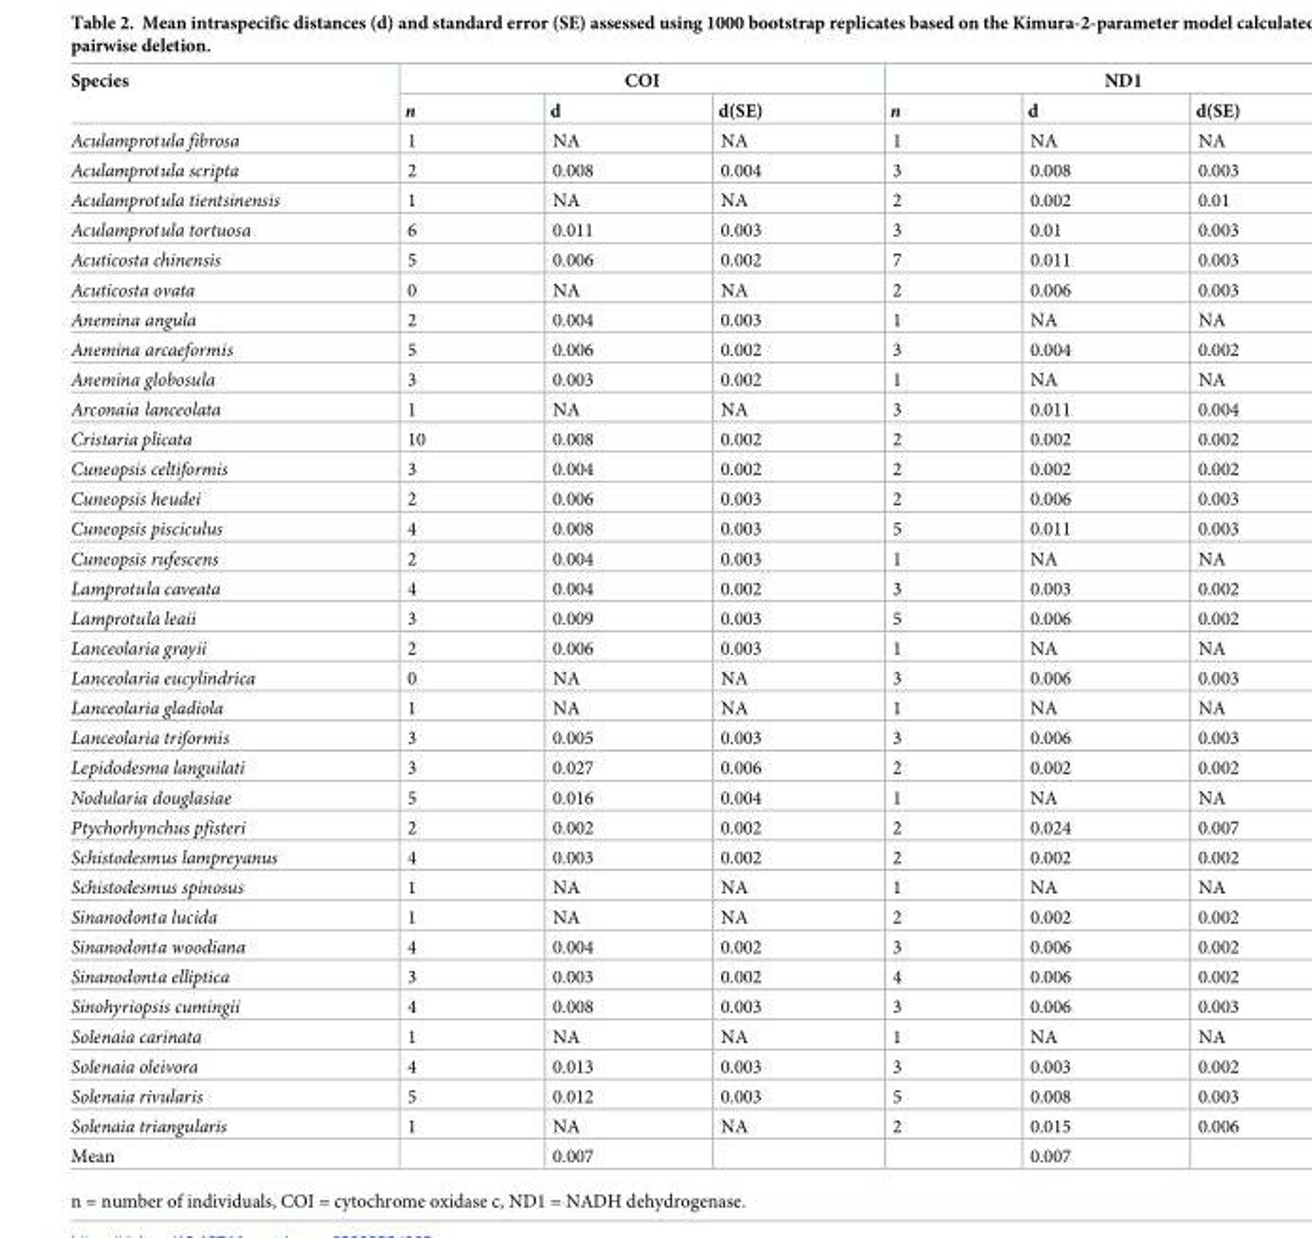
<table><thead><tr><td rowspan="2">Species</td><td colspan="3">COI</td><td colspan="3">ND1</td></tr><tr><td>n</td><td>d</td><td>d(SE)</td><td>n</td><td>d</td><td>d(SE)</td></tr></thead><tbody><tr><td>Aculamprotula fibrosa</td><td>1</td><td>NA</td><td>NA</td><td>1</td><td>NA</td><td>NA</td></tr><tr><td>Aculamprotula scripta</td><td>2</td><td>0.008</td><td>0.004</td><td>3</td><td>0.008</td><td>0.003</td></tr><tr><td>Aculamprotula tientsinensis</td><td>1</td><td>NA</td><td>NA</td><td>2</td><td>0.002</td><td>0.01</td></tr><tr><td>Aculamprotula tortuosa</td><td>6</td><td>0.011</td><td>0.003</td><td>3</td><td>0.01</td><td>0.003</td></tr><tr><td>Acuticosta chinensis</td><td>5</td><td>0.006</td><td>0.002</td><td>7</td><td>0.011</td><td>0.003</td></tr><tr><td>Acuticosta ovata</td><td>0</td><td>NA</td><td>NA</td><td>2</td><td>0.006</td><td>0.003</td></tr><tr><td>Anemina angula</td><td>2</td><td>0.004</td><td>0.003</td><td>1</td><td>NA</td><td>NA</td></tr><tr><td>Anemina arcaeformis</td><td>5</td><td>0.006</td><td>0.002</td><td>3</td><td>0.004</td><td>0.002</td></tr><tr><td>Anemina globosula</td><td>3</td><td>0.003</td><td>0.002</td><td>1</td><td>NA</td><td>NA</td></tr><tr><td>Arconaia lanceolata</td><td>1</td><td>NA</td><td>NA</td><td>3</td><td>0.011</td><td>0.004</td></tr><tr><td>Cristaria plicata</td><td>10</td><td>0.008</td><td>0.002</td><td>2</td><td>0.002</td><td>0.002</td></tr><tr><td>Cuneopsis celtiformis</td><td>3</td><td>0.004</td><td>0.002</td><td>2</td><td>0.002</td><td>0.002</td></tr><tr><td>Cuneopsis heudei</td><td>2</td><td>0.006</td><td>0.003</td><td>2</td><td>0.006</td><td>0.003</td></tr><tr><td>Cuneopsis pisciculus</td><td>4</td><td>0.008</td><td>0.003</td><td>5</td><td>0.011</td><td>0.003</td></tr><tr><td>Cuneopsis rufescens</td><td>2</td><td>0.004</td><td>0.003</td><td>1</td><td>NA</td><td>NA</td></tr><tr><td>Lamprotula caveata</td><td>4</td><td>0.004</td><td>0.002</td><td>3</td><td>0.003</td><td>0.002</td></tr><tr><td>Lamprotula leaii</td><td>3</td><td>0.009</td><td>0.003</td><td>5</td><td>0.006</td><td>0.002</td></tr><tr><td>Lanceolaria grayii</td><td>2</td><td>0.006</td><td>0.003</td><td>1</td><td>NA</td><td>NA</td></tr><tr><td>Lanceolaria eucylindrica</td><td>0</td><td>NA</td><td>NA</td><td>3</td><td>0.006</td><td>0.003</td></tr><tr><td>Lanceolaria gladiola</td><td>1</td><td>NA</td><td>NA</td><td>1</td><td>NA</td><td>NA</td></tr><tr><td>Lanceolaria triformis</td><td>3</td><td>0.005</td><td>0.003</td><td>3</td><td>0.006</td><td>0.003</td></tr><tr><td>Lepidodesma languilati</td><td>3</td><td>0.027</td><td>0.006</td><td>2</td><td>0.002</td><td>0.002</td></tr><tr><td>Nodularia douglasiae</td><td>5</td><td>0.016</td><td>0.004</td><td>1</td><td>NA</td><td>NA</td></tr><tr><td>Ptychorhynchus pfisteri</td><td>2</td><td>0.002</td><td>0.002</td><td>2</td><td>0.024</td><td>0.007</td></tr><tr><td>Schistodesmus lampreyanus</td><td>4</td><td>0.003</td><td>0.002</td><td>2</td><td>0.002</td><td>0.002</td></tr><tr><td>Schistodesmus spinosus</td><td>1</td><td>NA</td><td>NA</td><td>1</td><td>NA</td><td>NA</td></tr><tr><td>Sinanodonta lucida</td><td>1</td><td>NA</td><td>NA</td><td>2</td><td>0.002</td><td>0.002</td></tr><tr><td>Sinanodonta woodiana</td><td>4</td><td>0.004</td><td>0.002</td><td>3</td><td>0.006</td><td>0.002</td></tr><tr><td>Sinanodonta elliptica</td><td>3</td><td>0.003</td><td>0.002</td><td>4</td><td>0.006</td><td>0.002</td></tr><tr><td>Sinohyriopsis cumingii</td><td>4</td><td>0.008</td><td>0.003</td><td>3</td><td>0.006</td><td>0.003</td></tr><tr><td>Solenaia carinata</td><td>1</td><td>NA</td><td>NA</td><td>1</td><td>NA</td><td>NA</td></tr><tr><td>Solenaia oleivora</td><td>4</td><td>0.013</td><td>0.003</td><td>3</td><td>0.003</td><td>0.002</td></tr><tr><td>Solenaia rivularis</td><td>5</td><td>0.012</td><td>0.003</td><td>5</td><td>0.008</td><td>0.003</td></tr><tr><td>Solenaia triangularis</td><td>1</td><td>NA</td><td>NA</td><td>2</td><td>0.015</td><td>0.006</td></tr><tr><td>Mean</td><td></td><td>0.007</td><td></td><td></td><td>0.007</td><td></td></tr></tbody></table>